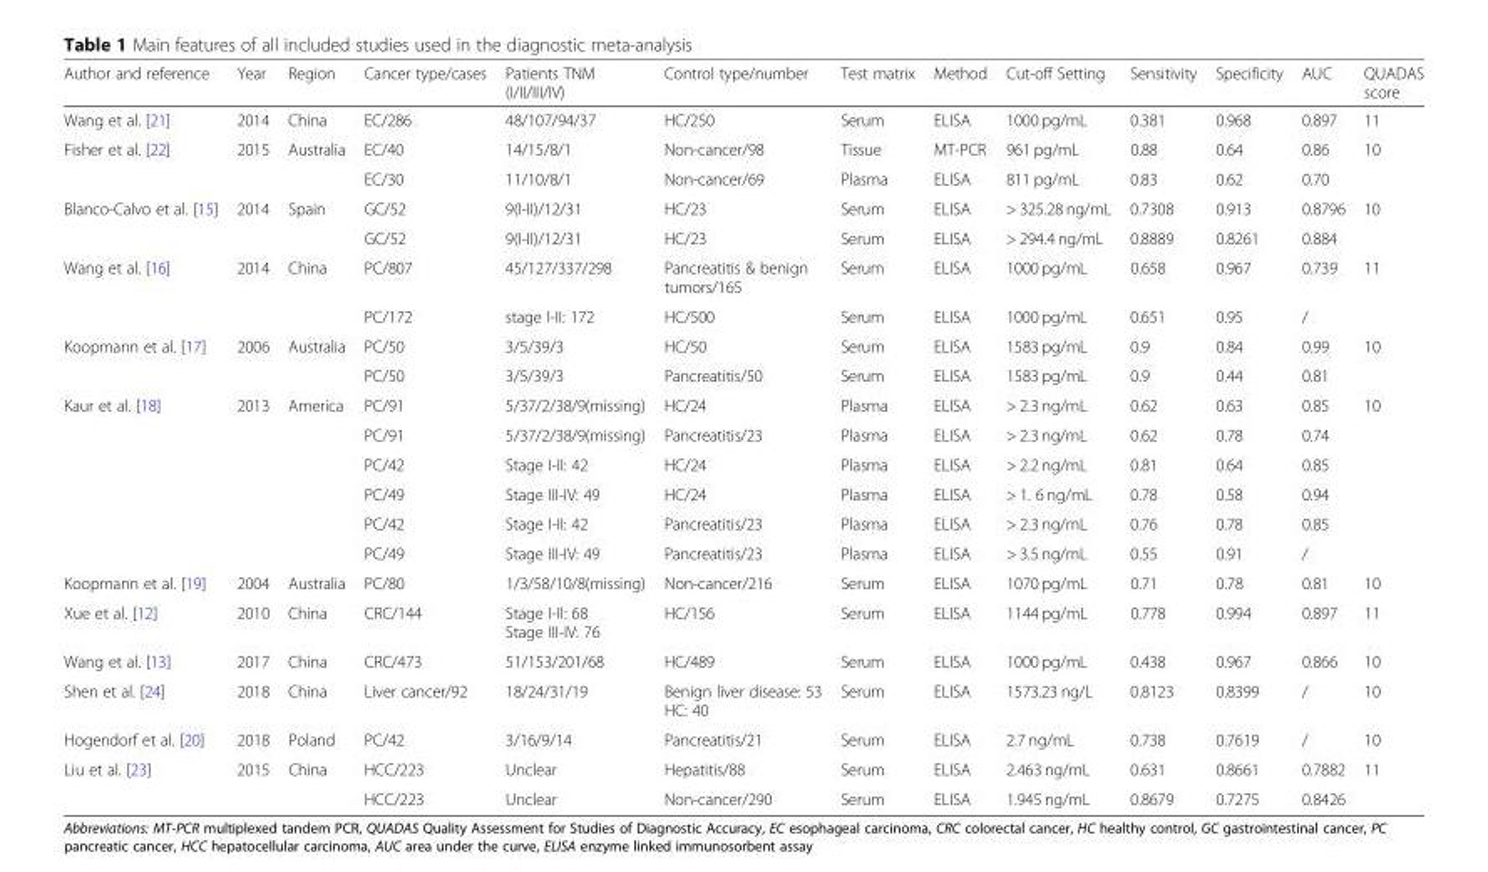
<table><thead><tr><td>Author and reference</td><td>Year</td><td>Region</td><td>Cancer type/cases</td><td>Patients TNM (I/II/III/IV)</td><td>Control type/number</td><td>Test matrix</td><td>Method</td><td>Cut-off Setting</td><td>Sensitivity</td><td>Specificity</td><td>AUC</td><td>QUADAS score</td></tr></thead><tbody><tr><td>Wang et al. [21]</td><td>2014</td><td>China</td><td>EC/286</td><td>48/107/94/37</td><td>HC/250</td><td>Serum</td><td>ELISA</td><td>1000 pg/mL</td><td>0.381</td><td>0.968</td><td>0.897</td><td>11</td></tr><tr><td rowspan="2">Fisher et al. [22]</td><td rowspan="2">2015</td><td rowspan="2">Australia</td><td>EC/40</td><td>14/15/8/1</td><td>Non-cancer/98</td><td>Tissue</td><td>MT-PCR</td><td>961 pg/mL</td><td>0.88</td><td>0.64</td><td>0.86</td><td rowspan="2">10</td></tr><tr><td>EC/30</td><td>11/10/8/1</td><td>Non-cancer/69</td><td>Plasma</td><td>ELISA</td><td>811 pg/mL</td><td>0.83</td><td>0.62</td><td>0.70</td></tr><tr><td rowspan="2">Blanco-Calvo et al. [15]</td><td rowspan="2">2014</td><td rowspan="2">Spain</td><td>GC/52</td><td>9(I-II)/12/31</td><td>HC/23</td><td>Serum</td><td>ELISA</td><td>&gt; 325.28 ng/mL</td><td>0.7308</td><td>0.913</td><td>0.8796</td><td rowspan="2">10</td></tr><tr><td>GC/52</td><td>9(I-II)/12/31</td><td>HC/23</td><td>Serum</td><td>ELISA</td><td>&gt; 294.4 ng/mL</td><td>0.8889</td><td>0.8261</td><td>0.884</td></tr><tr><td rowspan="2">Wang et al. [16]</td><td rowspan="2">2014</td><td rowspan="2">China</td><td>PC/807</td><td>45/127/337/298</td><td>Pancreatitis &amp; benign tumors/165</td><td>Serum</td><td>ELISA</td><td>1000 pg/mL</td><td>0.658</td><td>0.967</td><td>0.739</td><td rowspan="2">11</td></tr><tr><td>PC/172</td><td>stage I-II: 172</td><td>HC/500</td><td>Serum</td><td>ELISA</td><td>1000 pg/mL</td><td>0.651</td><td>0.95</td><td>/</td></tr><tr><td rowspan="2">Koopmann et al. [17]</td><td rowspan="2">2006</td><td rowspan="2">Australia</td><td>PC/50</td><td>3/5/39/3</td><td>HC/50</td><td>Serum</td><td>ELISA</td><td>1583 pg/mL</td><td>0.9</td><td>0.84</td><td>0.99</td><td rowspan="2">10</td></tr><tr><td>PC/50</td><td>3/5/39/3</td><td>Pancreatitis/50</td><td>Serum</td><td>ELISA</td><td>1583 pg/mL</td><td>0.9</td><td>0.44</td><td>0.81</td></tr><tr><td rowspan="6">Kaur et al. [18]</td><td rowspan="6">2013</td><td rowspan="6">America</td><td>PC/91</td><td>5/37/2/38/9(missing)</td><td>HC/24</td><td>Plasma</td><td>ELISA</td><td>&gt; 2.3 ng/mL</td><td>0.62</td><td>0.63</td><td>0.85</td><td rowspan="6">10</td></tr><tr><td>PC/91</td><td>5/37/2/38/9(missing)</td><td>Pancreatitis/23</td><td>Plasma</td><td>ELISA</td><td>&gt; 2.3 ng/mL</td><td>0.62</td><td>0.78</td><td>0.74</td></tr><tr><td>PC/42</td><td>Stage I-II: 42</td><td>HC/24</td><td>Plasma</td><td>ELISA</td><td>&gt; 2.2 ng/mL</td><td>0.81</td><td>0.64</td><td>0.85</td></tr><tr><td>PC/49</td><td>Stage III-IV: 49</td><td>HC/24</td><td>Plasma</td><td>ELISA</td><td>&gt; 1. 6 ng/mL</td><td>0.78</td><td>0.58</td><td>0.94</td></tr><tr><td>PC/42</td><td>Stage I-II: 42</td><td>Pancreatitis/23</td><td>Plasma</td><td>ELISA</td><td>&gt; 2.3 ng/mL</td><td>0.76</td><td>0.78</td><td>0.85</td></tr><tr><td>PC/49</td><td>Stage III-IV: 49</td><td>Pancreatitis/23</td><td>Plasma</td><td>ELISA</td><td>&gt; 3.5 ng/mL</td><td>0.55</td><td>0.91</td><td>/</td></tr><tr><td>Koopmann et al. [19]</td><td>2004</td><td>Australia</td><td>PC/80</td><td>1/3/58/10/8(missing)</td><td>Non-cancer/216</td><td>Serum</td><td>ELISA</td><td>1070 pg/mL</td><td>0.71</td><td>0.78</td><td>0.81</td><td>10</td></tr><tr><td>Xue et al. [12]</td><td>2010</td><td>China</td><td>CRC/144</td><td>Stage I-II: 68 Stage III-IV: 76</td><td>HC/156</td><td>Serum</td><td>ELISA</td><td>1144 pg/mL</td><td>0.778</td><td>0.994</td><td>0.897</td><td>11</td></tr><tr><td>Wang et al. [13]</td><td>2017</td><td>China</td><td>CRC/473</td><td>51/153/201/68</td><td>HC/489</td><td>Serum</td><td>ELISA</td><td>1000 pg/mL</td><td>0.438</td><td>0.967</td><td>0.866</td><td>10</td></tr><tr><td>Shen et al. [24]</td><td>2018</td><td>China</td><td>Liver cancer/92</td><td>18/24/31/19</td><td>Benign liver disease: 53 HC: 40</td><td>Serum</td><td>ELISA</td><td>1573.23 ng/L</td><td>0.8123</td><td>0.8399</td><td>/</td><td>10</td></tr><tr><td>Hogendorf et al. [20]</td><td>2018</td><td>Poland</td><td>PC/42</td><td>3/16/9/14</td><td>Pancreatitis/21</td><td>Serum</td><td>ELISA</td><td>2.7 ng/mL</td><td>0.738</td><td>0.7619</td><td>/</td><td>10</td></tr><tr><td rowspan="2">Liu et al. [23]</td><td rowspan="2">2015</td><td rowspan="2">China</td><td>HCC/223</td><td>Unclear</td><td>Hepatitis/88</td><td>Serum</td><td>ELISA</td><td>2.463 ng/mL</td><td>0.631</td><td>0.8661</td><td>0.7882</td><td rowspan="2">11</td></tr><tr><td>HCC/223</td><td>Unclear</td><td>Non-cancer/290</td><td>Serum</td><td>ELISA</td><td>1.945 ng/mL</td><td>0.8679</td><td>0.7275</td><td>0.8426</td></tr></tbody></table>